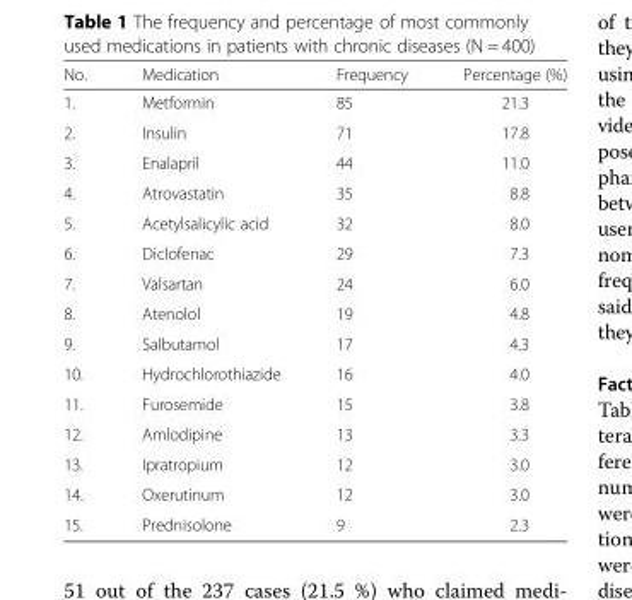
<table><thead><tr><td>No.</td><td>Medication</td><td>Frequency</td><td>Percentage (%)</td></tr></thead><tbody><tr><td>1.</td><td>Metformin</td><td>85</td><td>21.3</td></tr><tr><td>2.</td><td>Insulin</td><td>71</td><td>17.8</td></tr><tr><td>3.</td><td>Enalapril</td><td>44</td><td>11.0</td></tr><tr><td>4.</td><td>Atrovastatin</td><td>35</td><td>8.8</td></tr><tr><td>5.</td><td>Acetylsalicylic acid</td><td>32</td><td>8.0</td></tr><tr><td>6.</td><td>Diclofenac</td><td>29</td><td>7.3</td></tr><tr><td>7.</td><td>Valsartan</td><td>24</td><td>6.0</td></tr><tr><td>8.</td><td>Atenolol</td><td>19</td><td>4.8</td></tr><tr><td>9.</td><td>Salbutamol</td><td>17</td><td>4.3</td></tr><tr><td>10.</td><td>Hydrochlorothiazide</td><td>16</td><td>4.0</td></tr><tr><td>11.</td><td>Furosemide</td><td>15</td><td>3.8</td></tr><tr><td>12.</td><td>Amlodipine</td><td>13</td><td>3.3</td></tr><tr><td>13.</td><td>Ipratropium</td><td>12</td><td>3.0</td></tr><tr><td>14.</td><td>Oxerutinum</td><td>12</td><td>3.0</td></tr><tr><td>15.</td><td>Prednisolone</td><td>9</td><td>2.3</td></tr></tbody></table>